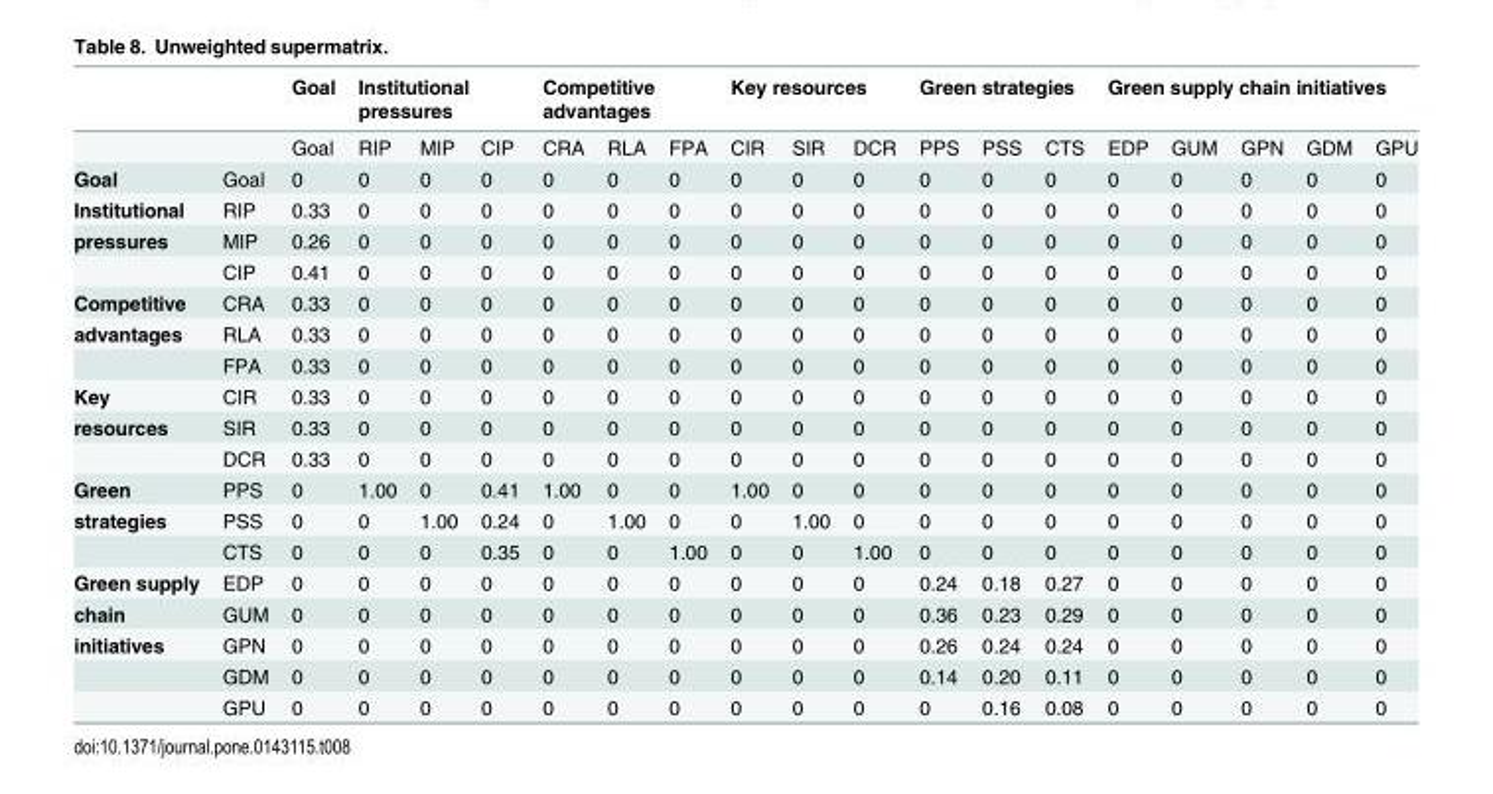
<table><thead><tr><td rowspan="2"></td><td rowspan="2"></td><td rowspan="2">Goal Goal</td><td colspan="3">Institutional pressures</td><td colspan="3">Competitive advantages</td><td colspan="3">Key resources</td><td colspan="3">Green strategies</td><td colspan="5">Green supply chain initiatives</td></tr><tr><td>RIP</td><td>MIP</td><td>CIP</td><td>CRA</td><td>RLA</td><td>FPA</td><td>CIR</td><td>SIR</td><td>DCR</td><td>PPS</td><td>PSS</td><td>CTS</td><td>EDP</td><td>GUM</td><td>GPN</td><td>GDM</td><td>GPU</td></tr></thead><tbody><tr><td>Goal</td><td>Goal</td><td>0</td><td>0</td><td>0</td><td>0</td><td>0</td><td>0</td><td>0</td><td>0</td><td>0</td><td>0</td><td>0</td><td>0</td><td>0</td><td>0</td><td>0</td><td>0</td><td>0</td><td>0</td></tr><tr><td>Institutional</td><td>RIP</td><td>0.33</td><td>0</td><td>0</td><td>0</td><td>0</td><td>0</td><td>0</td><td>0</td><td>0</td><td>0</td><td>0</td><td>0</td><td>0</td><td>0</td><td>0</td><td>0</td><td>0</td><td>0</td></tr><tr><td rowspan="2">pressures</td><td>MIP</td><td>0.26</td><td>0</td><td>0</td><td>0</td><td>0</td><td>0</td><td>0</td><td>0</td><td>0</td><td>0</td><td>0</td><td>0</td><td>0</td><td>0</td><td>0</td><td>0</td><td>0</td><td>0</td></tr><tr><td>CIP</td><td>0.41</td><td>0</td><td>0</td><td>0</td><td>0</td><td>0</td><td>0</td><td>0</td><td>0</td><td>0</td><td>0</td><td>0</td><td>0</td><td>0</td><td>0</td><td>0</td><td>0</td><td>0</td></tr><tr><td>Competitive</td><td>CRA</td><td>0.33</td><td>0</td><td>0</td><td>0</td><td>0</td><td>0</td><td>0</td><td>0</td><td>0</td><td>0</td><td>0</td><td>0</td><td>0</td><td>0</td><td>0</td><td>0</td><td>0</td><td>0</td></tr><tr><td rowspan="2">advantages</td><td>RLA</td><td>0.33</td><td>0</td><td>0</td><td>0</td><td>0</td><td>0</td><td>0</td><td>0</td><td>0</td><td>0</td><td>0</td><td>0</td><td>0</td><td>0</td><td>0</td><td>0</td><td>0</td><td>0</td></tr><tr><td>FPA</td><td>0.33</td><td>0</td><td>0</td><td>0</td><td>0</td><td>0</td><td>0</td><td>0</td><td>0</td><td>0</td><td>0</td><td>0</td><td>0</td><td>0</td><td>0</td><td>0</td><td>0</td><td>0</td></tr><tr><td>Key</td><td>CIR</td><td>0.33</td><td>0</td><td>0</td><td>0</td><td>0</td><td>0</td><td>0</td><td>0</td><td>0</td><td>0</td><td>0</td><td>0</td><td>0</td><td>0</td><td>0</td><td>0</td><td>0</td><td>0</td></tr><tr><td rowspan="2">resources</td><td>SIR</td><td>0.33</td><td>0</td><td>0</td><td>0</td><td>0</td><td>0</td><td>0</td><td>0</td><td>0</td><td>0</td><td>0</td><td>0</td><td>0</td><td>0</td><td>0</td><td>0</td><td>0</td><td>0</td></tr><tr><td>DCR</td><td>0.33</td><td>0</td><td>0</td><td>0</td><td>0</td><td>0</td><td>0</td><td>0</td><td>0</td><td>0</td><td>0</td><td>0</td><td>0</td><td>0</td><td>0</td><td>0</td><td>0</td><td>0</td></tr><tr><td>Green</td><td>PPS</td><td>0</td><td>1.00</td><td>0</td><td>0.41</td><td>1.00</td><td>0</td><td>0</td><td>1.00</td><td>0</td><td>0</td><td>0</td><td>0</td><td>0</td><td>0</td><td>0</td><td>0</td><td>0</td><td>0</td></tr><tr><td rowspan="2">strategies</td><td>PSS</td><td>0</td><td>0</td><td>1.00</td><td>0.24</td><td>0</td><td>1.00</td><td>0</td><td>0</td><td>1.00</td><td>0</td><td>0</td><td>0</td><td>0</td><td>0</td><td>0</td><td>0</td><td>0</td><td>0</td></tr><tr><td>CTS</td><td>0</td><td>0</td><td>0</td><td>0.35</td><td>0</td><td>0</td><td>1.00</td><td>0</td><td>0</td><td>1.00</td><td>0</td><td>0</td><td>0</td><td>0</td><td>0</td><td>0</td><td>0</td><td>0</td></tr><tr><td>Green supply</td><td>EDP</td><td>0</td><td>0</td><td>0</td><td>0</td><td>0</td><td>0</td><td>0</td><td>0</td><td>0</td><td>0</td><td>0.24</td><td>0.18</td><td>0.27</td><td>0</td><td>0</td><td>0</td><td>0</td><td>0</td></tr><tr><td>chain</td><td>GUM</td><td>0</td><td>0</td><td>0</td><td>0</td><td>0</td><td>0</td><td>0</td><td>0</td><td>0</td><td>0</td><td>0.36</td><td>0.23</td><td>0.29</td><td>0</td><td>0</td><td>0</td><td>0</td><td>0</td></tr><tr><td rowspan="3">initiatives</td><td>GPN</td><td>0</td><td>0</td><td>0</td><td>0</td><td>0</td><td>0</td><td>0</td><td>0</td><td>0</td><td>0</td><td>0.26</td><td>0.24</td><td>0.24</td><td>0</td><td>0</td><td>0</td><td>0</td><td>0</td></tr><tr><td>GDM</td><td>0</td><td>0</td><td>0</td><td>0</td><td>0</td><td>0</td><td>0</td><td>0</td><td>0</td><td>0</td><td>0.14</td><td>0.20</td><td>0.11</td><td>0</td><td>0</td><td>0</td><td>0</td><td>0</td></tr><tr><td>GPU</td><td>0</td><td>0</td><td>0</td><td>0</td><td>0</td><td>0</td><td>0</td><td>0</td><td>0</td><td>0</td><td>0</td><td>0.16</td><td>0.08</td><td>0</td><td>0</td><td>0</td><td>0</td><td>0</td></tr></tbody></table>